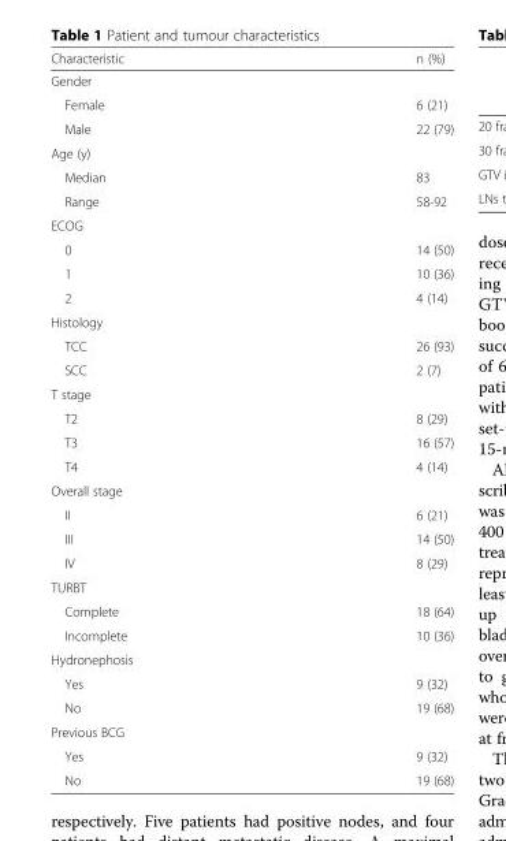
<table><thead><tr><td>Characteristic</td><td>n (%)</td></tr></thead><tbody><tr><td colspan="2">Gender</td></tr><tr><td>Female</td><td>6 (21)</td></tr><tr><td>Male</td><td>22 (79)</td></tr><tr><td colspan="2">Age (y)</td></tr><tr><td>Median</td><td>83</td></tr><tr><td>Range</td><td>58-92</td></tr><tr><td colspan="2">ECOG</td></tr><tr><td>0</td><td>14 (50)</td></tr><tr><td>1</td><td>10 (36)</td></tr><tr><td>2</td><td>4 (14)</td></tr><tr><td colspan="2">Histology</td></tr><tr><td>TCC</td><td>26 (93)</td></tr><tr><td>SCC</td><td>2 (7)</td></tr><tr><td colspan="2">T stage</td></tr><tr><td>T2</td><td>8 (29)</td></tr><tr><td>T3</td><td>16 (57)</td></tr><tr><td>T4</td><td>4 (14)</td></tr><tr><td colspan="2">Overall stage</td></tr><tr><td>II</td><td>6 (21)</td></tr><tr><td>III</td><td>14 (50)</td></tr><tr><td>IV</td><td>8 (29)</td></tr><tr><td colspan="2">TURBT</td></tr><tr><td>Complete</td><td>18 (64)</td></tr><tr><td>Incomplete</td><td>10 (36)</td></tr><tr><td colspan="2">Hydronephosis</td></tr><tr><td>Yes</td><td>9 (32)</td></tr><tr><td>No</td><td>19 (68)</td></tr><tr><td colspan="2">Previous BCG</td></tr><tr><td>Yes</td><td>9 (32)</td></tr><tr><td>No</td><td>19 (68)</td></tr></tbody></table>